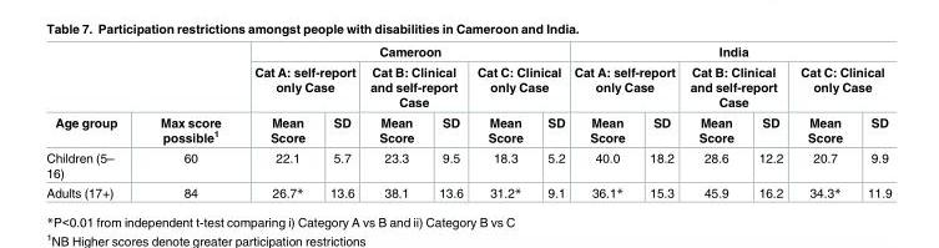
<table><thead><tr><td rowspan="3">Age group</td><td rowspan="3">Max score possible<sup>1</sup></td><td colspan="6">Cameroon</td><td colspan="6">India</td></tr><tr><td colspan="2">Cat A: self-report only Case</td><td colspan="2">Cat B: Clinical and self-report Case</td><td colspan="2">Cat C: Clinical only Case</td><td colspan="2">Cat A: self-report only Case</td><td colspan="2">Cat B: Clinical and self-report Case</td><td colspan="2">Cat C: Clinical only Case</td></tr><tr><td>Mean Score</td><td>SD</td><td>Mean Score</td><td>SD</td><td>Mean Score</td><td>SD</td><td>Mean Score</td><td>SD</td><td>Mean Score</td><td>SD</td><td>Mean Score</td><td>SD</td></tr></thead><tbody><tr><td>Children (5– 16)</td><td>60</td><td>22.1</td><td>5.7</td><td>23.3</td><td>9.5</td><td>18.3</td><td>5.2</td><td>40.0</td><td>18.2</td><td>28.6</td><td>12.2</td><td>20.7</td><td>9.9</td></tr><tr><td>Adults (17+)</td><td>84</td><td>26.7*</td><td>13.6</td><td>38.1</td><td>13.6</td><td>31.2*</td><td>9.1</td><td>36.1*</td><td>15.3</td><td>45.9</td><td>16.2</td><td>34.3*</td><td>11.9</td></tr></tbody></table>